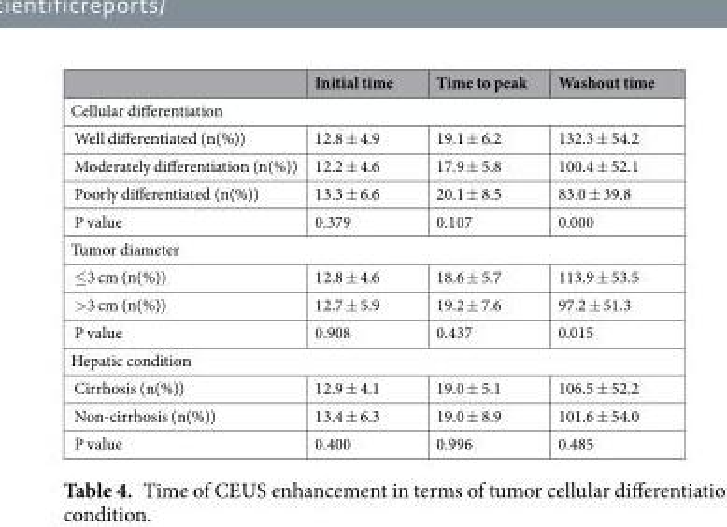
<table><thead><tr><td></td><td>Initial time</td><td>Time to peak</td><td>Washout time</td></tr></thead><tbody><tr><td colspan="4">Cellular differentiation</td></tr><tr><td>Well differentiated (n(%))</td><td>12.8 ± 4.9</td><td>19.1 ± 6.2</td><td>132.3 ± 54.2</td></tr><tr><td>Moderately differentiation (n(%))</td><td>12.2 ± 4.6</td><td>17.9 ± 5.8</td><td>100.4 ± 52.1</td></tr><tr><td>Poorly differentiated (n(%))</td><td>13.3 ± 6.6</td><td>20.1 ± 8.5</td><td>83.0 ± 39.8</td></tr><tr><td>P value</td><td>0.379</td><td>0.107</td><td>0.000</td></tr><tr><td colspan="4">Tumor diameter</td></tr><tr><td>≤3 cm (n(%))</td><td>12.8 ± 4.6</td><td>18.6 ± 5.7</td><td>113.9 ± 53.5</td></tr><tr><td>&gt;3 cm (n(%))</td><td>12.7 ± 5.9</td><td>19.2 ± 7.6</td><td>97.2 ± 51.3</td></tr><tr><td>P value</td><td>0.908</td><td>0.437</td><td>0.015</td></tr><tr><td colspan="4">Hepatic condition</td></tr><tr><td>Cirrhosis (n(%))</td><td>12.9 ± 4.1</td><td>19.0 ± 5.1</td><td>106.5 ± 52.2</td></tr><tr><td>Non-cirrhosis (n(%))</td><td>13.4 ± 6.3</td><td>19.0 ± 8.9</td><td>101.6 ± 54.0</td></tr><tr><td>P value</td><td>0.400</td><td>0.996</td><td>0.485</td></tr></tbody></table>